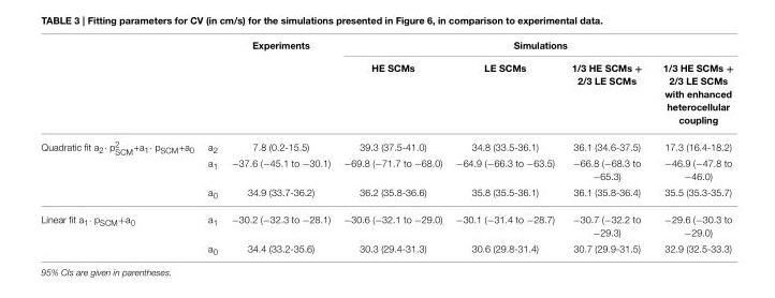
<table><thead><tr><td rowspan="2"></td><td rowspan="2"></td><td rowspan="2">Experiments</td><td colspan="4">Simulations</td></tr><tr><td>HE SCMs</td><td>LE SCMs</td><td>1/3 HE SCMs + 2/3 LE SCMs</td><td>1/3 HE SCMs + 2/3 LE SCMs with enhanced heterocellular coupling</td></tr></thead><tbody><tr><td rowspan="3">Quadratic fit a<sub>2</sub>· p<sup>2</sup> <sub>SCM</sub>+a<sub>1</sub>· p<sub>SCM</sub>+a<sub>0</sub></td><td>a<sub>2</sub></td><td>7.8 (0.2-15.5)</td><td>39.3 (37.5-41.0)</td><td>34.8 (33.5-36.1)</td><td>36.1 (34.6-37.5)</td><td>17.3 (16.4-18.2)</td></tr><tr><td>a<sub>1</sub></td><td>−37.6 (−45.1 to −30.1)</td><td>−69.8 (−71.7 to −68.0)</td><td>−64.9 (−66.3 to −63.5)</td><td>−66.8 (−68.3 to −65.3)</td><td>−46.9 (−47.8 to −46.0)</td></tr><tr><td>a<sub>0</sub></td><td>34.9 (33.7-36.2)</td><td>36.2 (35.8-36.6)</td><td>35.8 (35.5-36.1)</td><td>36.1 (35.8-36.4)</td><td>35.5 (35.3-35.7)</td></tr><tr><td rowspan="2">Linear fit a<sub>1</sub>· p<sub>SCM</sub>+a<sub>0</sub></td><td>a<sub>1</sub></td><td>−30.2 (−32.3 to −28.1)</td><td>−30.6 (−32.1 to −29.0)</td><td>−30.1 (−31.4 to −28.7)</td><td>−30.7 (−32.2 to −29.3)</td><td>−29.6 (−30.3 to −29.0)</td></tr><tr><td>a<sub>0</sub></td><td>34.4 (33.2-35.6)</td><td>30.3 (29.4-31.3)</td><td>30.6 (29.8-31.4)</td><td>30.7 (29.9-31.5)</td><td>32.9 (32.5-33.3)</td></tr></tbody></table>